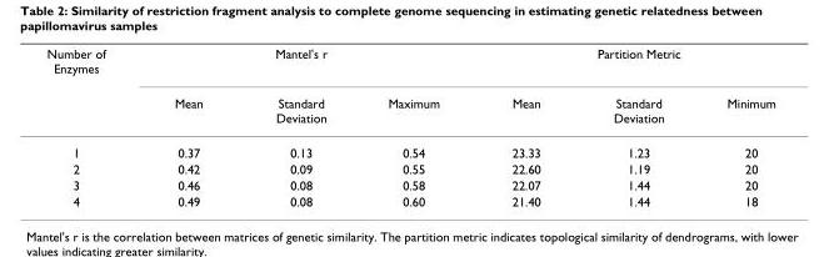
<table><thead><tr><td rowspan="2">Number of Enzymes</td><td colspan="3">Mantel&#x27;s r</td><td colspan="3">Partition Metric</td></tr><tr><td>Mean</td><td>Standard Deviation</td><td>Maximum</td><td>Mean</td><td>Standard Deviation</td><td>Minimum</td></tr></thead><tbody><tr><td>1</td><td>0.37</td><td>0.13</td><td>0.54</td><td>23.33</td><td>1.23</td><td>20</td></tr><tr><td>2</td><td>0.42</td><td>0.09</td><td>0.55</td><td>22.60</td><td>1.19</td><td>20</td></tr><tr><td>3</td><td>0.46</td><td>0.08</td><td>0.58</td><td>22.07</td><td>1.44</td><td>20</td></tr><tr><td>4</td><td>0.49</td><td>0.08</td><td>0.60</td><td>21.40</td><td>1.44</td><td>18</td></tr></tbody></table>